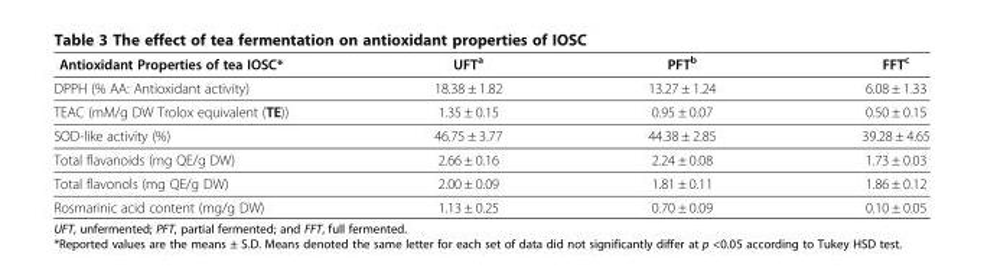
<table><thead><tr><td>Antioxidant Properties of tea IOSC*</td><td>UFT<sup>a</sup></td><td>PFT<sup>b</sup></td><td>FFT<sup>c</sup></td></tr></thead><tbody><tr><td>DPPH (% AA: Antioxidant activity)</td><td>18.38 ± 1.82</td><td>13.27 ± 1.24</td><td>6.08 ± 1.33</td></tr><tr><td>TEAC (mM/g DW Trolox equivalent (TE))</td><td>1.35 ± 0.15</td><td>0.95 ± 0.07</td><td>0.50 ± 0.15</td></tr><tr><td>SOD-like activity (%)</td><td>46.75 ± 3.77</td><td>44.38 ± 2.85</td><td>39.28 ± 4.65</td></tr><tr><td>Total flavanoids (mg QE/g DW)</td><td>2.66 ± 0.16</td><td>2.24 ± 0.08</td><td>1.73 ± 0.03</td></tr><tr><td>Total flavonols (mg QE/g DW)</td><td>2.00 ± 0.09</td><td>1.81 ± 0.11</td><td>1.86 ± 0.12</td></tr><tr><td>Rosmarinic acid content (mg/g DW)</td><td>1.13 ± 0.25</td><td>0.70 ± 0.09</td><td>0.10 ± 0.05</td></tr></tbody></table>